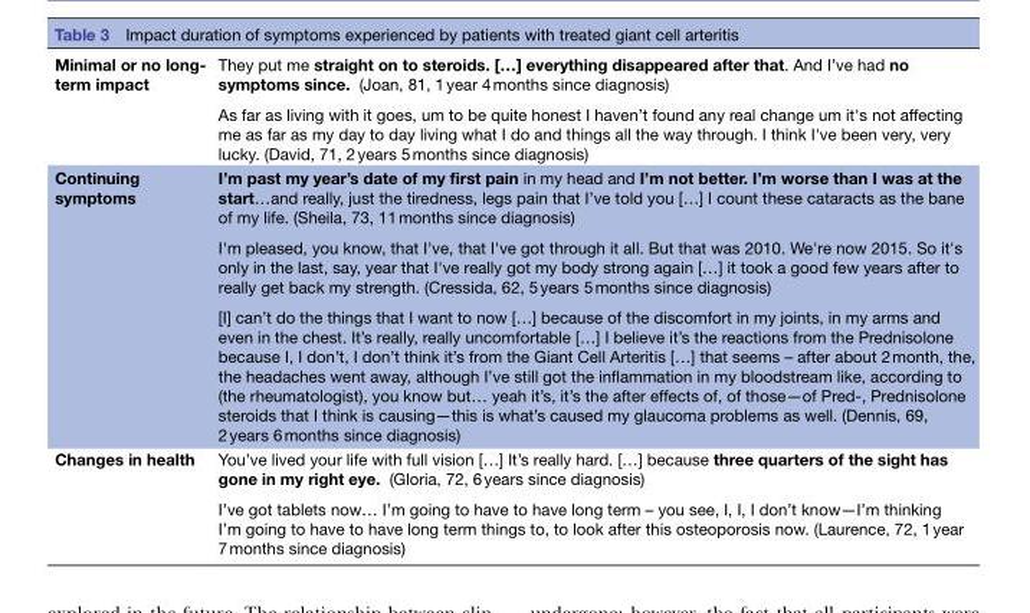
<table><tbody><tr><td>Minimal or no long- term impact</td><td>They put me straight on to steroids. […] everything disappeared after that. And I’ve had no symptoms since. (Joan, 81, 1 year 4 months since diagnosis) As far as living with it goes, um to be quite honest I haven’t found any real change um it&#x27;s not affecting me as far as my day to day living what I do and things all the way through. I think I&#x27;ve been very, very lucky. (David, 71, 2 years 5 months since diagnosis)</td></tr><tr><td>Continuing symptoms</td><td>I’m past my year’s date of my first pain in my head and I’m not better. I’m worse than I was at the start…and really, just the tiredness, legs pain that I’ve told you […] I count these cataracts as the bane of my life. (Sheila, 73, 11 months since diagnosis) I&#x27;m pleased, you know, that I&#x27;ve, that I&#x27;ve got through it all. But that was 2010. We&#x27;re now 2015. So it&#x27;s only in the last, say, year that I&#x27;ve really got my body strong again […] it took a good few years after to really get back my strength. (Cressida, 62, 5 years 5 months since diagnosis) [I] can’t do the things that I want to now […] because of the discomfort in my joints, in my arms and even in the chest. It’s really, really uncomfortable […] I believe it’s the reactions from the Prednisolone because I, I don’t, I don’t think it’s from the Giant Cell Arteritis […] that seems – after about 2 month, the, the headaches went away, although I’ve still got the inflammation in my bloodstream like, according to (the rheumatologist), you know but… yeah it’s, it’s the after effects of, of those—of Pred-, Prednisolone steroids that I think is causing—this is what’s caused my glaucoma problems as well. (Dennis, 69, 2 years 6 months since diagnosis)</td></tr><tr><td>Changes in health</td><td>You’ve lived your life with full vision […] It’s really hard. […] because three quarters of the sight has gone in my right eye. (Gloria, 72, 6 years since diagnosis) I’ve got tablets now… I’m going to have to have long term – you see, I, I, I don’t know—I’m thinking I’m going to have to have long term things to, to look after this osteoporosis now. (Laurence, 72, 1 year 7 months since diagnosis)</td></tr></tbody></table>